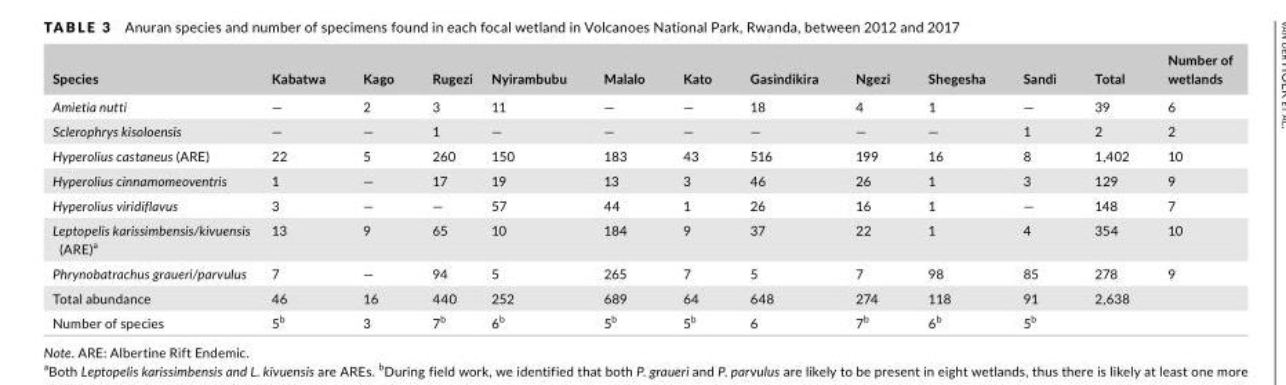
<table><thead><tr><td>Species</td><td>Kabatwa</td><td>Kago</td><td>Rugezi</td><td>Nyirambubu</td><td>Malalo</td><td>Kato</td><td>Gasindikira</td><td>Ngezi</td><td>Shegesha</td><td>Sandi</td><td>Total</td><td>Number of wetlands</td></tr></thead><tbody><tr><td>Amietia nutti</td><td>—</td><td>2</td><td>3</td><td>11</td><td>—</td><td>—</td><td>18</td><td>4</td><td>1</td><td>—</td><td>39</td><td>6</td></tr><tr><td>Sclerophrys kisoloensis</td><td>—</td><td>—</td><td>1</td><td>—</td><td>—</td><td>—</td><td>—</td><td>—</td><td>—</td><td>1</td><td>2</td><td>2</td></tr><tr><td>Hyperolius castaneus (ARE)</td><td>22</td><td>5</td><td>260</td><td>150</td><td>183</td><td>43</td><td>516</td><td>199</td><td>16</td><td>8</td><td>1,402</td><td>10</td></tr><tr><td>Hyperolius cinnamomeoventris</td><td>1</td><td>—</td><td>17</td><td>19</td><td>13</td><td>3</td><td>46</td><td>26</td><td>1</td><td>3</td><td>129</td><td>9</td></tr><tr><td>Hyperolius viridiflavus</td><td>3</td><td>—</td><td>—</td><td>57</td><td>44</td><td>1</td><td>26</td><td>16</td><td>1</td><td>—</td><td>148</td><td>7</td></tr><tr><td>Leptopelis karissimbensis/kivuensis (ARE)<sup>a</sup></td><td>13</td><td>9</td><td>65</td><td>10</td><td>184</td><td>9</td><td>37</td><td>22</td><td>1</td><td>4</td><td>354</td><td>10</td></tr><tr><td>Phrynobatrachus graueri/parvulus</td><td>7</td><td>—</td><td>94</td><td>5</td><td>265</td><td>7</td><td>5</td><td>7</td><td>98</td><td>85</td><td>278</td><td>9</td></tr><tr><td>Total abundance</td><td>46</td><td>16</td><td>440</td><td>252</td><td>689</td><td>64</td><td>648</td><td>274</td><td>118</td><td>91</td><td>2,638</td><td></td></tr><tr><td>Number of species</td><td>5<sup>b</sup></td><td>3</td><td>7<sup>b</sup></td><td>6<sup>b</sup></td><td>5<sup>b</sup></td><td>5<sup>b</sup></td><td>6</td><td>7<sup>b</sup></td><td>6<sup>b</sup></td><td>5<sup>b</sup></td><td></td><td></td></tr></tbody></table>